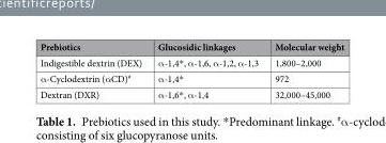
<table><thead><tr><td>Prebiotics</td><td>Glucosidic linkages</td><td>Molecular weight</td></tr></thead><tbody><tr><td>Indigestible dextrin (DEX)</td><td>α-1,4*, α-1,6, α-1,2, α-1,3</td><td>1,800–2,000</td></tr><tr><td>α-Cyclodextrin (αCD)<sup>#</sup></td><td>α-1,4*</td><td>972</td></tr><tr><td>Dextran (DXR)</td><td>α-1,6*, α-1,4</td><td>32,000–45,000</td></tr></tbody></table>